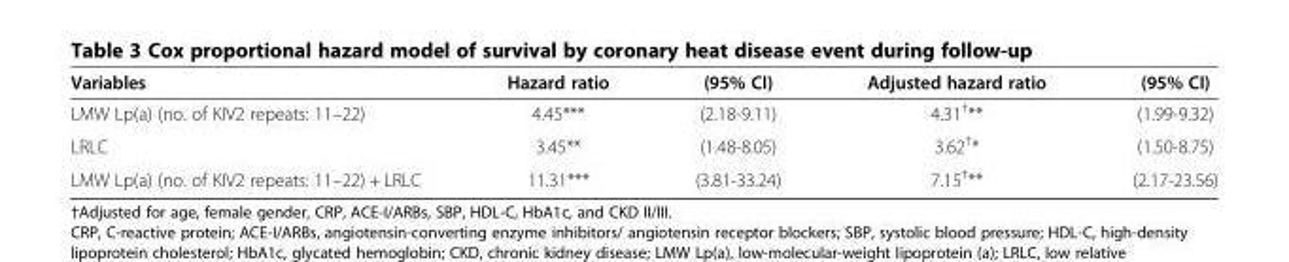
<table><thead><tr><td>Variables</td><td>Hazard ratio</td><td>(95% CI)</td><td>Adjusted hazard ratio</td><td>(95% CI)</td></tr></thead><tbody><tr><td>LMW Lp(a) (no. of KIV2 repeats: 11–22)</td><td>4.45***</td><td>(2.18-9.11)</td><td>4.31<sup>†</sup>**</td><td>(1.99-9.32)</td></tr><tr><td>LRLC</td><td>3.45**</td><td>(1.48-8.05)</td><td>3.62<sup>†</sup>*</td><td>(1.50-8.75)</td></tr><tr><td>LMW Lp(a) (no. of KIV2 repeats: 11–22) + LRLC</td><td>11.31***</td><td>(3.81-33.24)</td><td>7.15<sup>†</sup>**</td><td>(2.17-23.56)</td></tr></tbody></table>